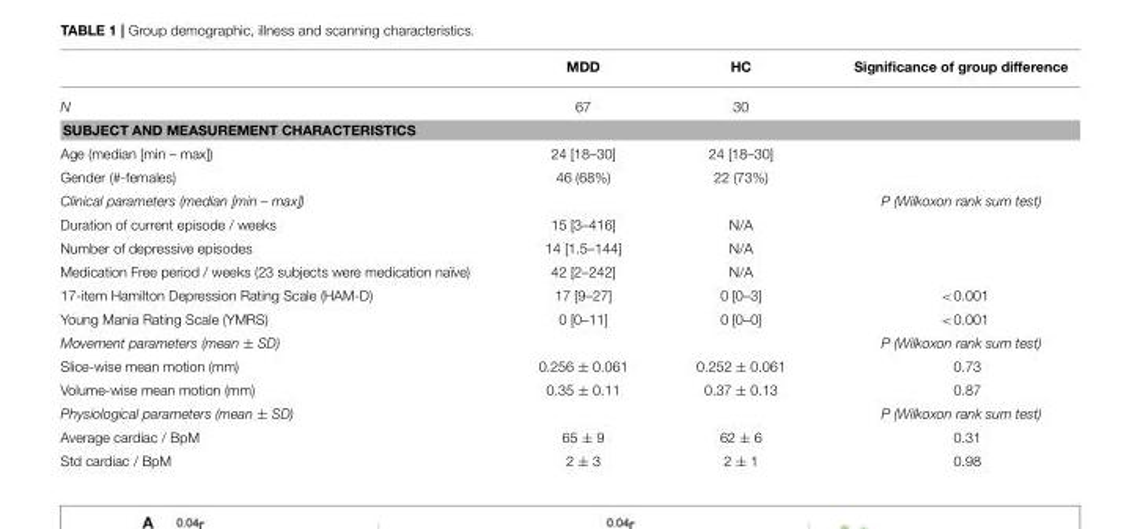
<table><thead><tr><td></td><td>MDD</td><td>HC</td><td>Significance of group difference</td></tr></thead><tbody><tr><td>N</td><td>67</td><td>30</td><td></td></tr><tr><td colspan="4">SUBJECT AND MEASUREMENT CHARACTERISTICS</td></tr><tr><td>Age (median [min – max])</td><td>24 [18–30]</td><td>24 [18–30]</td><td></td></tr><tr><td>Gender (#-females)</td><td>46 (68%)</td><td>22 (73%)</td><td></td></tr><tr><td>Clinical parameters (median [min – max])</td><td></td><td></td><td>P (Wilkoxon rank sum test)</td></tr><tr><td>Duration of current episode / weeks</td><td>15 [3–416]</td><td>N/A</td><td></td></tr><tr><td>Number of depressive episodes</td><td>14 [1.5–144]</td><td>N/A</td><td></td></tr><tr><td>Medication Free period / weeks (23 subjects were medication naïve)</td><td>42 [2–242]</td><td>N/A</td><td></td></tr><tr><td>17-item Hamilton Depression Rating Scale (HAM-D)</td><td>17 [9–27]</td><td>0 [0–3]</td><td>&lt;0.001</td></tr><tr><td>Young Mania Rating Scale (YMRS)</td><td>0 [0–11]</td><td>0 [0–0]</td><td>&lt;0.001</td></tr><tr><td>Movement parameters (mean ± SD)</td><td></td><td></td><td>P (Wilkoxon rank sum test)</td></tr><tr><td>Slice-wise mean motion (mm)</td><td>0.256 ± 0.061</td><td>0.252 ± 0.061</td><td>0.73</td></tr><tr><td>Volume-wise mean motion (mm)</td><td>0.35 ± 0.11</td><td>0.37 ± 0.13</td><td>0.87</td></tr><tr><td>Physiological parameters (mean ± SD)</td><td></td><td></td><td>P (Wilkoxon rank sum test)</td></tr><tr><td>Average cardiac / BpM</td><td>65 ± 9</td><td>62 ± 6</td><td>0.31</td></tr><tr><td>Std cardiac / BpM</td><td>2 ± 3</td><td>2 ± 1</td><td>0.98</td></tr></tbody></table>